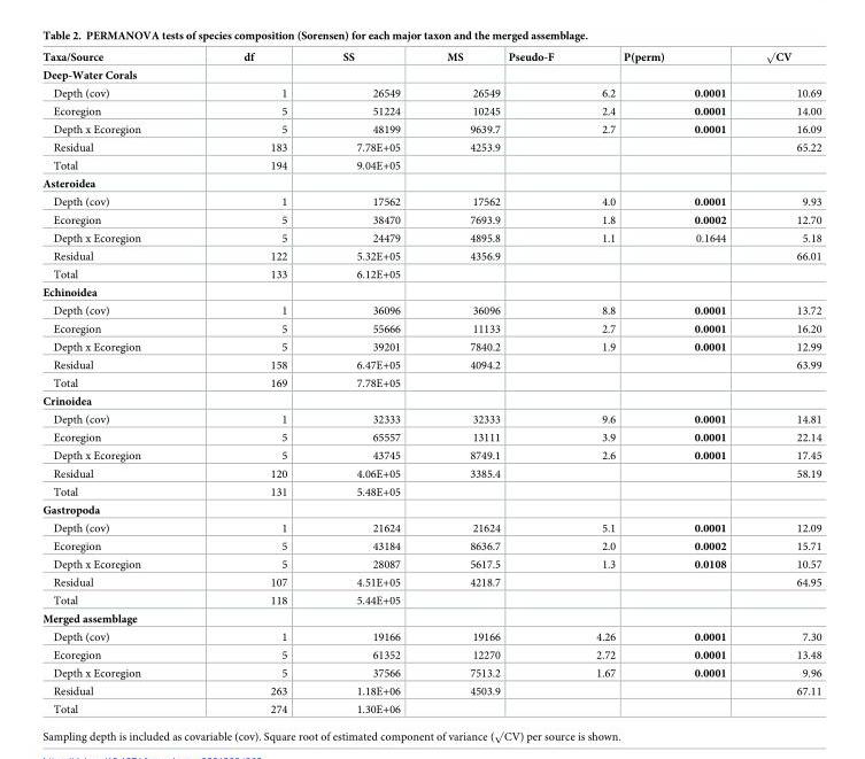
<table><thead><tr><td>Taxa/Source</td><td>df</td><td>SS</td><td>MS</td><td>Pseudo-F</td><td>P(perm)</td><td>√CV</td></tr></thead><tbody><tr><td colspan="7">Deep-Water Corals</td></tr><tr><td>Depth (cov)</td><td>1</td><td>26549</td><td>26549</td><td>6.2</td><td>0.0001</td><td>10.69</td></tr><tr><td>Ecoregion</td><td>5</td><td>51224</td><td>10245</td><td>2.4</td><td>0.0001</td><td>14.00</td></tr><tr><td>Depth x Ecoregion</td><td>5</td><td>48199</td><td>9639.7</td><td>2.7</td><td>0.0001</td><td>16.09</td></tr><tr><td>Residual</td><td>183</td><td>7.78E+05</td><td>4253.9</td><td></td><td></td><td>65.22</td></tr><tr><td>Total</td><td>194</td><td>9.04E+05</td><td></td><td></td><td></td><td></td></tr><tr><td colspan="7">Asteroidea</td></tr><tr><td>Depth (cov)</td><td>1</td><td>17562</td><td>17562</td><td>4.0</td><td>0.0001</td><td>9.93</td></tr><tr><td>Ecoregion</td><td>5</td><td>38470</td><td>7693.9</td><td>1.8</td><td>0.0002</td><td>12.70</td></tr><tr><td>Depth x Ecoregion</td><td>5</td><td>24479</td><td>4895.8</td><td>1.1</td><td>0.1644</td><td>5.18</td></tr><tr><td>Residual</td><td>122</td><td>5.32E+05</td><td>4356.9</td><td></td><td></td><td>66.01</td></tr><tr><td>Total</td><td>133</td><td>6.12E+05</td><td></td><td></td><td></td><td></td></tr><tr><td colspan="7">Echinoidea</td></tr><tr><td>Depth (cov)</td><td>1</td><td>36096</td><td>36096</td><td>8.8</td><td>0.0001</td><td>13.72</td></tr><tr><td>Ecoregion</td><td>5</td><td>55666</td><td>11133</td><td>2.7</td><td>0.0001</td><td>16.20</td></tr><tr><td>Depth x Ecoregion</td><td>5</td><td>39201</td><td>7840.2</td><td>1.9</td><td>0.0001</td><td>12.99</td></tr><tr><td>Residual</td><td>158</td><td>6.47E+05</td><td>4094.2</td><td></td><td></td><td>63.99</td></tr><tr><td>Total</td><td>169</td><td>7.78E+05</td><td></td><td></td><td></td><td></td></tr><tr><td colspan="7">Crinoidea</td></tr><tr><td>Depth (cov)</td><td>1</td><td>32333</td><td>32333</td><td>9.6</td><td>0.0001</td><td>14.81</td></tr><tr><td>Ecoregion</td><td>5</td><td>65557</td><td>13111</td><td>3.9</td><td>0.0001</td><td>22.14</td></tr><tr><td>Depth x Ecoregion</td><td>5</td><td>43745</td><td>8749.1</td><td>2.6</td><td>0.0001</td><td>17.45</td></tr><tr><td>Residual</td><td>120</td><td>4.06E+05</td><td>3385.4</td><td></td><td></td><td>58.19</td></tr><tr><td>Total</td><td>131</td><td>5.48E+05</td><td></td><td></td><td></td><td></td></tr><tr><td colspan="7">Gastropoda</td></tr><tr><td>Depth (cov)</td><td>1</td><td>21624</td><td>21624</td><td>5.1</td><td>0.0001</td><td>12.09</td></tr><tr><td>Ecoregion</td><td>5</td><td>43184</td><td>8636.7</td><td>2.0</td><td>0.0002</td><td>15.71</td></tr><tr><td>Depth x Ecoregion</td><td>5</td><td>28087</td><td>5617.5</td><td>1.3</td><td>0.0108</td><td>10.57</td></tr><tr><td>Residual</td><td>107</td><td>4.51E+05</td><td>4218.7</td><td></td><td></td><td>64.95</td></tr><tr><td>Total</td><td>118</td><td>5.44E+05</td><td></td><td></td><td></td><td></td></tr><tr><td colspan="7">Merged assemblage</td></tr><tr><td>Depth (cov)</td><td>1</td><td>19166</td><td>19166</td><td>4.26</td><td>0.0001</td><td>7.30</td></tr><tr><td>Ecoregion</td><td>5</td><td>61352</td><td>12270</td><td>2.72</td><td>0.0001</td><td>13.48</td></tr><tr><td>Depth x Ecoregion</td><td>5</td><td>37566</td><td>7513.2</td><td>1.67</td><td>0.0001</td><td>9.96</td></tr><tr><td>Residual</td><td>263</td><td>1.18E+06</td><td>4503.9</td><td></td><td></td><td>67.11</td></tr><tr><td>Total</td><td>274</td><td>1.30E+06</td><td></td><td></td><td></td><td></td></tr></tbody></table>